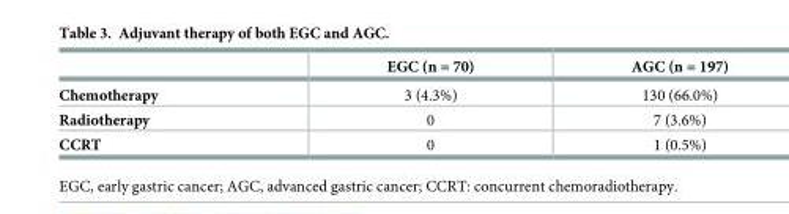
<table><thead><tr><td></td><td>EGC (n = 70)</td><td>AGC (n = 197)</td></tr></thead><tbody><tr><td>Chemotherapy</td><td>3 (4.3%)</td><td>130 (66.0%)</td></tr><tr><td>Radiotherapy</td><td>0</td><td>7 (3.6%)</td></tr><tr><td>CCRT</td><td>0</td><td>1 (0.5%)</td></tr></tbody></table>